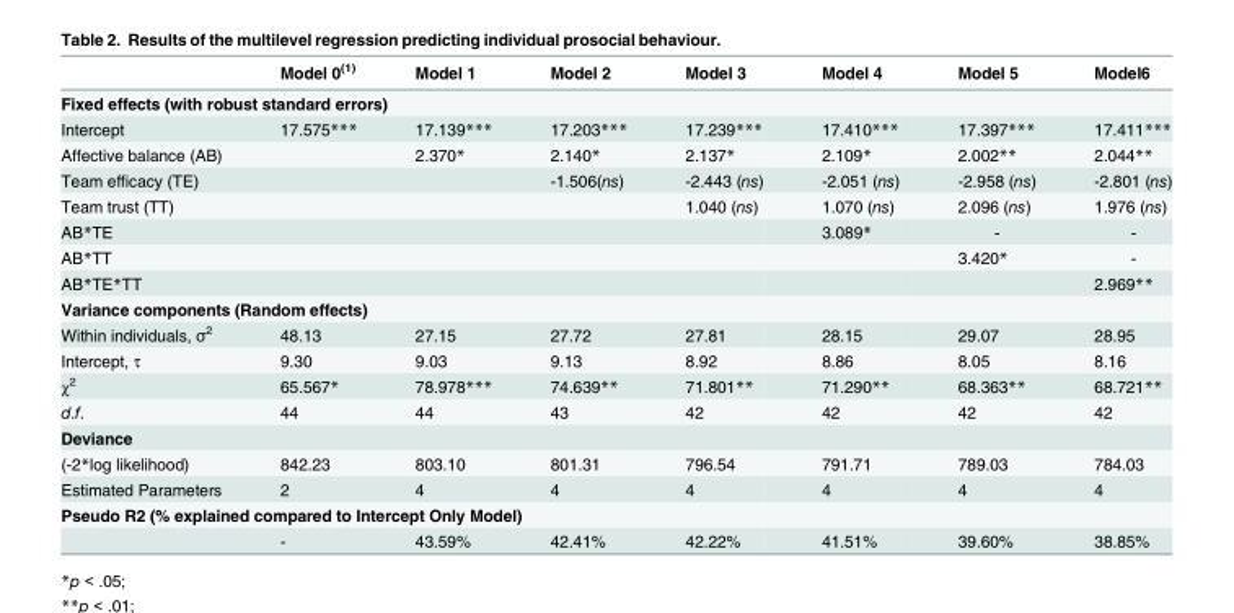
<table><thead><tr><td></td><td>Model 0<sup>(1)</sup></td><td>Model 1</td><td>Model 2</td><td>Model 3</td><td>Model 4</td><td>Model 5</td><td>Model6</td></tr></thead><tbody><tr><td colspan="8">Fixed effects (with robust standard errors)</td></tr><tr><td>Intercept</td><td>17.575***</td><td>17.139***</td><td>17.203***</td><td>17.239***</td><td>17.410***</td><td>17.397***</td><td>17.411***</td></tr><tr><td>Affective balance (AB)</td><td></td><td>2.370*</td><td>2.140*</td><td>2.137*</td><td>2.109*</td><td>2.002**</td><td>2.044**</td></tr><tr><td>Team efficacy (TE)</td><td></td><td></td><td>-1.506(ns)</td><td>-2.443 (ns)</td><td>-2.051 (ns)</td><td>-2.958 (ns)</td><td>-2.801 (ns)</td></tr><tr><td>Team trust (TT)</td><td></td><td></td><td></td><td>1.040 (ns)</td><td>1.070 (ns)</td><td>2.096 (ns)</td><td>1.976 (ns)</td></tr><tr><td>AB*TE</td><td></td><td></td><td></td><td></td><td>3.089*</td><td>-</td><td>-</td></tr><tr><td>AB*TT</td><td></td><td></td><td></td><td></td><td></td><td>3.420*</td><td>-</td></tr><tr><td>AB*TE*TT</td><td></td><td></td><td></td><td></td><td></td><td></td><td>2.969**</td></tr><tr><td colspan="8">Variance components (Random effects)</td></tr><tr><td>Within individuals, σ<sup>2</sup></td><td>48.13</td><td>27.15</td><td>27.72</td><td>27.81</td><td>28.15</td><td>29.07</td><td>28.95</td></tr><tr><td>Intercept, τ</td><td>9.30</td><td>9.03</td><td>9.13</td><td>8.92</td><td>8.86</td><td>8.05</td><td>8.16</td></tr><tr><td>χ<sup>2</sup></td><td>65.567*</td><td>78.978***</td><td>74.639**</td><td>71.801**</td><td>71.290**</td><td>68.363**</td><td>68.721**</td></tr><tr><td>d.f.</td><td>44</td><td>44</td><td>43</td><td>42</td><td>42</td><td>42</td><td>42</td></tr><tr><td colspan="8">Deviance</td></tr><tr><td>(-2*log likelihood)</td><td>842.23</td><td>803.10</td><td>801.31</td><td>796.54</td><td>791.71</td><td>789.03</td><td>784.03</td></tr><tr><td>Estimated Parameters</td><td>2</td><td>4</td><td>4</td><td>4</td><td>4</td><td>4</td><td>4</td></tr><tr><td colspan="8">Pseudo R2 (% explained compared to Intercept Only Model)</td></tr><tr><td></td><td>-</td><td>43.59%</td><td>42.41%</td><td>42.22%</td><td>41.51%</td><td>39.60%</td><td>38.85%</td></tr></tbody></table>